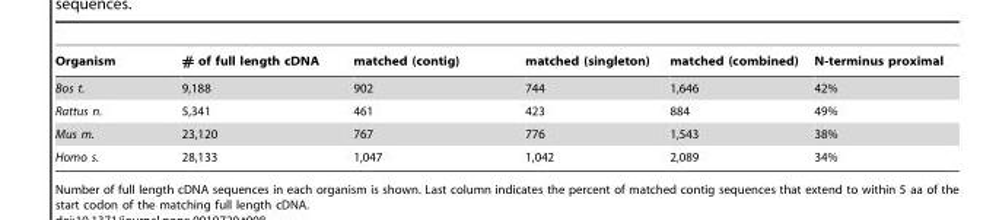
<table><thead><tr><td>Organism</td><td># of full length cDNA</td><td>matched (contig)</td><td>matched (singleton)</td><td>matched (combined)</td><td>N-terminus proximal</td></tr></thead><tbody><tr><td>Bos t.</td><td>9,188</td><td>902</td><td>744</td><td>1,646</td><td>42%</td></tr><tr><td>Rattus n.</td><td>5,341</td><td>461</td><td>423</td><td>884</td><td>49%</td></tr><tr><td>Mus m.</td><td>23,120</td><td>767</td><td>776</td><td>1,543</td><td>38%</td></tr><tr><td>Homo s.</td><td>28,133</td><td>1,047</td><td>1,042</td><td>2,089</td><td>34%</td></tr></tbody></table>